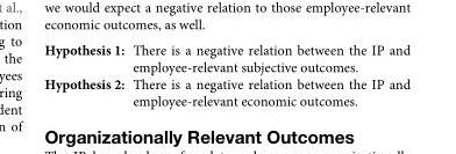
<table><tbody><tr><td>Hypothesis 1:</td><td>There is a negative relation between the IP and employee-relevant subjective outcomes.</td></tr><tr><td>Hypothesis 2:</td><td>There is a negative relation between the IP and employee-relevant economic outcomes.</td></tr></tbody></table>